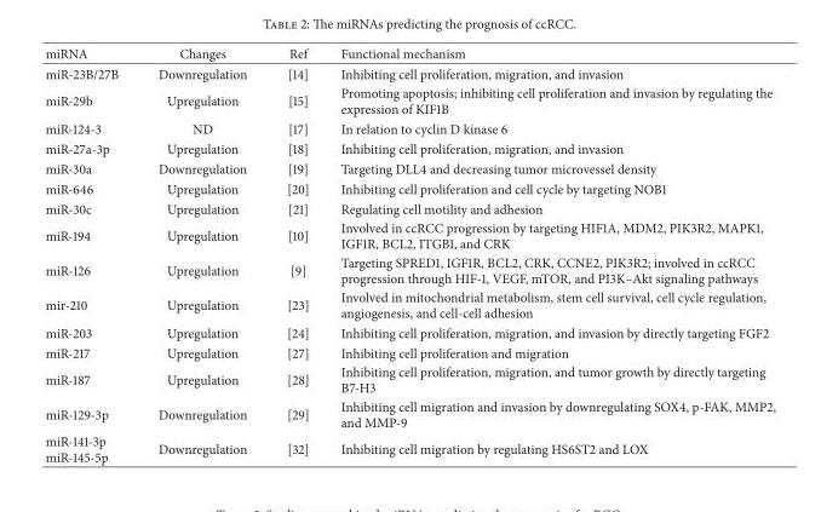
<table><thead><tr><td>miRNA</td><td>Changes</td><td>Ref</td><td>Functional mechanism</td></tr></thead><tbody><tr><td>miR-23B/27B</td><td>Downregulation</td><td>[14]</td><td>Inhibiting cell proliferation, migration, and invasion</td></tr><tr><td>miR-29b</td><td>Upregulation</td><td>[15]</td><td>Promoting apoptosis; inhibiting cell proliferation and invasion by regulating the expression of KIF1B</td></tr><tr><td>miR-124-3</td><td>ND</td><td>[17]</td><td>In relation to cyclin D kinase 6</td></tr><tr><td>miR-27a-3p</td><td>Upregulation</td><td>[18]</td><td>Inhibiting cell proliferation, migration, and invasion</td></tr><tr><td>miR-30a</td><td>Downregulation</td><td>[19]</td><td>Targeting DLL4 and decreasing tumor microvessel density</td></tr><tr><td>miR-646</td><td>Upregulation</td><td>[20]</td><td>Inhibiting cell proliferation and cell cycle by targeting NOB1</td></tr><tr><td>miR-30c</td><td>Upregulation</td><td>[21]</td><td>Regulating cell motility and adhesion</td></tr><tr><td>miR-194</td><td>Upregulation</td><td>[10]</td><td>Involved in ccRCC progression by targeting HIF1A, MDM2, PIK3R2, MAPK1, IGF1R, BCL2, ITGB1, and CRK</td></tr><tr><td>miR-126</td><td>Upregulation</td><td>[9]</td><td>Targeting SPRED1, IGF1R, BCL2, CRK, CCNE2, PIK3R2; involved in ccRCC progression through HIF-1, VEGF, mTOR, and PI3K–Akt signaling pathways</td></tr><tr><td>mir-210</td><td>Upregulation</td><td>[23]</td><td>Involved in mitochondrial metabolism, stem cell survival, cell cycle regulation, angiogenesis, and cell-cell adhesion</td></tr><tr><td>miR-203</td><td>Upregulation</td><td>[24]</td><td>Inhibiting cell proliferation, migration, and invasion by directly targeting FGF2</td></tr><tr><td>miR-217</td><td>Upregulation</td><td>[27]</td><td>Inhibiting cell proliferation and migration</td></tr><tr><td>miR-187</td><td>Upregulation</td><td>[28]</td><td>Inhibiting cell proliferation, migration, and tumor growth by directly targeting B7-H3</td></tr><tr><td>miR-129-3p</td><td>Downregulation</td><td>[29]</td><td>Inhibiting cell migration and invasion by downregulating SOX4, p-FAK, MMP2, and MMP-9</td></tr><tr><td>miR-141-3p miR-145-5p</td><td>Downregulation</td><td>[32]</td><td>Inhibiting cell migration by regulating HS6ST2 and LOX</td></tr></tbody></table>